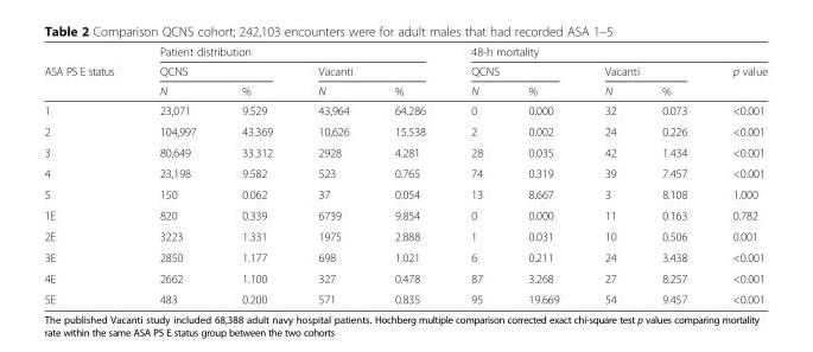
<table><thead><tr><td rowspan="3">ASA PS E status</td><td colspan="4">Patient distribution</td><td colspan="5">48-h mortality</td></tr><tr><td colspan="2">QCNS</td><td colspan="2">Vacanti</td><td colspan="2">QCNS</td><td colspan="2">Vacanti</td><td rowspan="2">p value</td></tr><tr><td>N</td><td>%</td><td>N</td><td>%</td><td>N</td><td>%</td><td>N</td><td>%</td></tr></thead><tbody><tr><td>1</td><td>23,071</td><td>9.529</td><td>43,964</td><td>64.286</td><td>0</td><td>0.000</td><td>32</td><td>0.073</td><td>&lt;0.001</td></tr><tr><td>2</td><td>104,997</td><td>43.369</td><td>10,626</td><td>15.538</td><td>2</td><td>0.002</td><td>24</td><td>0.226</td><td>&lt;0.001</td></tr><tr><td>3</td><td>80,649</td><td>33.312</td><td>2928</td><td>4.281</td><td>28</td><td>0.035</td><td>42</td><td>1.434</td><td>&lt;0.001</td></tr><tr><td>4</td><td>23,198</td><td>9.582</td><td>523</td><td>0.765</td><td>74</td><td>0.319</td><td>39</td><td>7.457</td><td>&lt;0.001</td></tr><tr><td>5</td><td>150</td><td>0.062</td><td>37</td><td>0.054</td><td>13</td><td>8.667</td><td>3</td><td>8.108</td><td>1.000</td></tr><tr><td>1E</td><td>820</td><td>0.339</td><td>6739</td><td>9.854</td><td>0</td><td>0.000</td><td>11</td><td>0.163</td><td>0.782</td></tr><tr><td>2E</td><td>3223</td><td>1.331</td><td>1975</td><td>2.888</td><td>1</td><td>0.031</td><td>10</td><td>0.506</td><td>0.001</td></tr><tr><td>3E</td><td>2850</td><td>1.177</td><td>698</td><td>1.021</td><td>6</td><td>0.211</td><td>24</td><td>3.438</td><td>&lt;0.001</td></tr><tr><td>4E</td><td>2662</td><td>1.100</td><td>327</td><td>0.478</td><td>87</td><td>3.268</td><td>27</td><td>8.257</td><td>&lt;0.001</td></tr><tr><td>5E</td><td>483</td><td>0.200</td><td>571</td><td>0.835</td><td>95</td><td>19.669</td><td>54</td><td>9.457</td><td>&lt;0.001</td></tr></tbody></table>